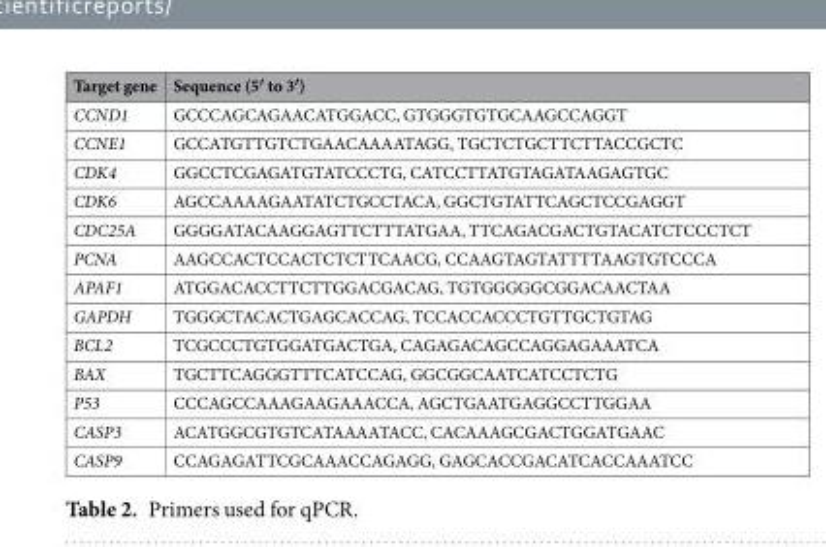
<table><thead><tr><td>Target gene</td><td>Sequence (5′ to 3′)</td></tr></thead><tbody><tr><td>CCND1</td><td>GCCCAGCAGAACATGGACC, GTGGGTGTGCAAGCCAGGT</td></tr><tr><td>CCNE1</td><td>GCCATGTTGTCTGAACAAAATAGG, TGCTCTGCTTCTTACCGCTC</td></tr><tr><td>CDK4</td><td>GGCCTCGAGATGTATCCCTG, CATCCTTATGTAGATAAGAGTGC</td></tr><tr><td>CDK6</td><td>AGCCAAAAGAATATCTGCCTACA, GGCTGTATTCAGCTCCGAGGT</td></tr><tr><td>CDC25A</td><td>GGGGATACAAGGAGTTCTTTATGAA, TTCAGACGACTGTACATCTCCCTCT</td></tr><tr><td>PCNA</td><td>AAGCCACTCCACTCTCTTCAACG, CCAAGTAGTATTTTAAGTGTCCCA</td></tr><tr><td>APAF1</td><td>ATGGACACCTTCTTGGACGACAG, TGTGGGGGCGGACAACTAA</td></tr><tr><td>GAPDH</td><td>TGGGCTACACTGAGCACCAG, TCCACCACCCTGTTGCTGTAG</td></tr><tr><td>BCL2</td><td>TCGCCCTGTGGATGACTGA, CAGAGACAGCCAGGAGAAATCA</td></tr><tr><td>BAX</td><td>TGCTTCAGGGTTTCATCCAG, GGCGGCAATCATCCTCTG</td></tr><tr><td>P53</td><td>CCCAGCCAAAGAAGAAACCA, AGCTGAATGAGGCCTTGGAA</td></tr><tr><td>CASP3</td><td>ACATGGCGTGTCATAAAATACC, CACAAAGCGACTGGATGAAC</td></tr><tr><td>CASP9</td><td>CCAGAGATTCGCAAACCAGAGG, GAGCACCGACATCACCAAATCC</td></tr></tbody></table>